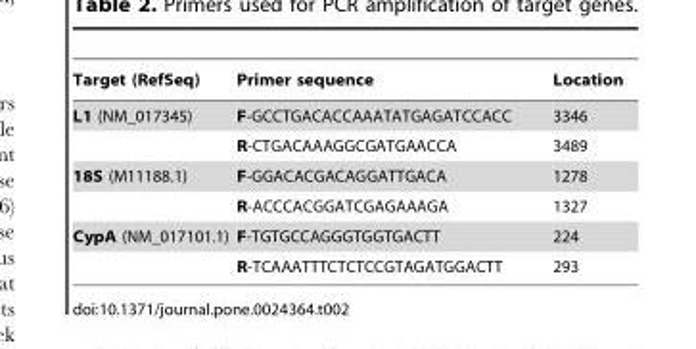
<table><thead><tr><td>Target (RefSeq)</td><td>Primer sequence</td><td>Location</td></tr></thead><tbody><tr><td rowspan="2">L1 (NM_017345)</td><td>F-GCCTGACACCAAATATGAGATCCACC</td><td>3346</td></tr><tr><td>R-CTGACAAAGGCGATGAACCA</td><td>3489</td></tr><tr><td rowspan="2">18S (M11188.1)</td><td>F-GGACACGACAGGATTGACA</td><td>1278</td></tr><tr><td>R-ACCCACGGATCGAGAAAGA</td><td>1327</td></tr><tr><td rowspan="2">CypA (NM_017101.1)</td><td>F-TGTGCCAGGGTGGTGACTT</td><td>224</td></tr><tr><td>R-TCAAATTTCTCTCCGTAGATGGACTT</td><td>293</td></tr></tbody></table>